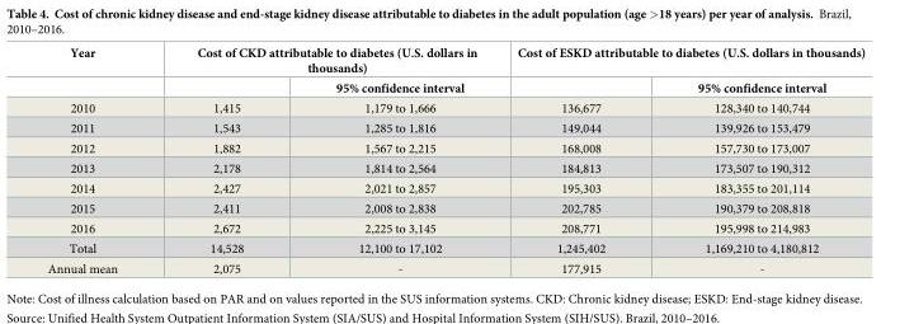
<table><thead><tr><td rowspan="2">Year</td><td colspan="2">Cost of CKD attributable to diabetes (U.S. dollars in thousands)</td><td colspan="2">Cost of ESKD attributable to diabetes (U.S. dollars in thousands)</td></tr><tr><td></td><td>95% confidence interval</td><td></td><td>95% confidence interval</td></tr></thead><tbody><tr><td>2010</td><td>1,415</td><td>1,179 to 1,666</td><td>136,677</td><td>128,340 to 140,744</td></tr><tr><td>2011</td><td>1,543</td><td>1,285 to 1,816</td><td>149,044</td><td>139,926 to 153,479</td></tr><tr><td>2012</td><td>1,882</td><td>1,567 to 2,215</td><td>168,008</td><td>157,730 to 173,007</td></tr><tr><td>2013</td><td>2,178</td><td>1,814 to 2,564</td><td>184,813</td><td>173,507 to 190,312</td></tr><tr><td>2014</td><td>2,427</td><td>2,021 to 2,857</td><td>195,303</td><td>183,355 to 201,114</td></tr><tr><td>2015</td><td>2,411</td><td>2,008 to 2,838</td><td>202,785</td><td>190,379 to 208,818</td></tr><tr><td>2016</td><td>2,672</td><td>2,225 to 3,145</td><td>208,771</td><td>195,998 to 214,983</td></tr><tr><td>Total</td><td>14,528</td><td>12,100 to 17,102</td><td>1,245,402</td><td>1,169,210 to 4,180,812</td></tr><tr><td>Annual mean</td><td>2,075</td><td>-</td><td>177,915</td><td>-</td></tr></tbody></table>